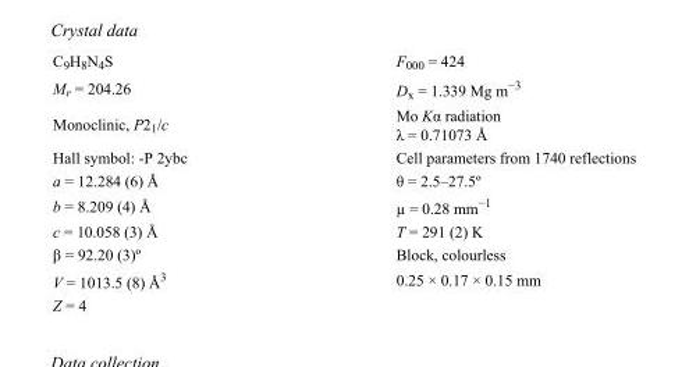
<table><tbody><tr><td>C<sub>9</sub>H<sub>8</sub>N<sub>4</sub>S</td><td>F000 = 424</td></tr><tr><td>M<sub>r</sub> = 204.26</td><td>D<sub>x</sub> = 1.339 Mg m<sup>−3</sup></td></tr><tr><td>Monoclinic, P2<sub>1</sub>/c</td><td>Mo Kα radiation λ = 0.71073 Å</td></tr><tr><td>Hall symbol: -P 2ybc</td><td>Cell parameters from 1740 reflections</td></tr><tr><td>a = 12.284 (6) Å</td><td>θ = 2.5–27.5º</td></tr><tr><td>b = 8.209 (4) Å</td><td>µ = 0.28 mm<sup>−1</sup></td></tr><tr><td>c = 10.058 (3) Å</td><td>T = 291 (2) K</td></tr><tr><td>β = 92.20 (3)º</td><td>Block, colourless</td></tr><tr><td>V = 1013.5 (8) Å<sup>3</sup></td><td>0.25 × 0.17 × 0.15 mm</td></tr><tr><td>Z = 4</td><td></td></tr></tbody></table>